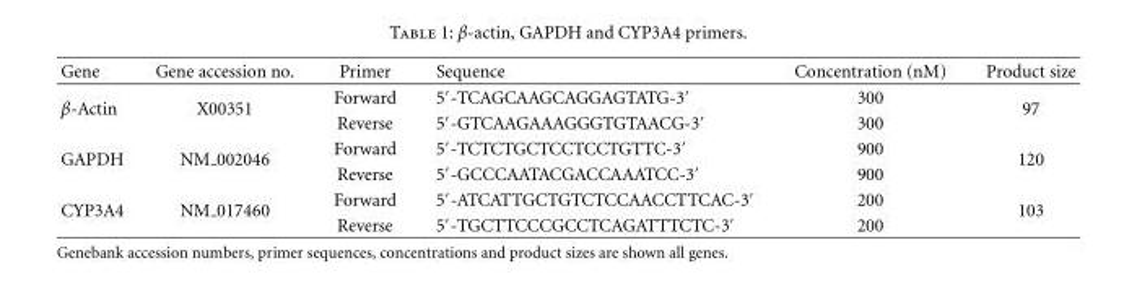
<table><thead><tr><td>Gene</td><td>Gene accession no.</td><td>Primer</td><td>Sequence</td><td>Concentration (nM)</td><td>Product size</td></tr></thead><tbody><tr><td rowspan="2">β-Actin</td><td rowspan="2">X00351</td><td>Forward</td><td>5′-TCAGCAAGCAGGAGTATG-3′</td><td>300</td><td rowspan="2">97</td></tr><tr><td>Reverse</td><td>5′-GTCAAGAAAGGGTGTAACG-3′</td><td>300</td></tr><tr><td rowspan="2">GAPDH</td><td rowspan="2">NM 002046</td><td>Forward</td><td>5′-TCTCTGCTCCTCCTGTTC-3′</td><td>900</td><td rowspan="2">120</td></tr><tr><td>Reverse</td><td>5′-GCCCAATACGACCAAATCC-3′</td><td>900</td></tr><tr><td rowspan="2">CYP3A4</td><td rowspan="2">NM 017460</td><td>Forward</td><td>5′-ATCATTGCTGTCTCCAACCTTCAC-3′</td><td>200</td><td rowspan="2">103</td></tr><tr><td>Reverse</td><td>5′-TGCTTCCCGCCTCAGATTTCTC-3′</td><td>200</td></tr></tbody></table>